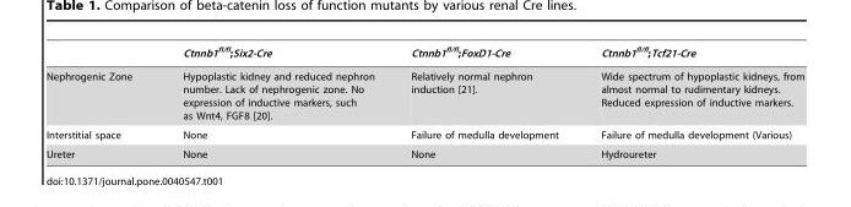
<table><thead><tr><td></td><td>Ctnnb1<sup>fl/fl</sup>;Six2-Cre</td><td>Ctnnb1<sup>fl/fl</sup>;FoxD1-Cre</td><td>Ctnnb1<sup>fl/fl</sup>;Tcf21-Cre</td></tr></thead><tbody><tr><td>Nephrogenic Zone</td><td>Hypoplastic kidney and reduced nephron number. Lack of nephrogenic zone. No expression of inductive markers, such as Wnt4, FGF8 [20].</td><td>Relatively normal nephron induction [21].</td><td>Wide spectrum of hypoplastic kidneys, from almost normal to rudimentary kidneys. Reduced expression of inductive markers.</td></tr><tr><td>Interstitial space</td><td>None</td><td>Failure of medulla development</td><td>Failure of medulla development (Various)</td></tr><tr><td>Ureter</td><td>None</td><td>None</td><td>Hydroureter</td></tr></tbody></table>